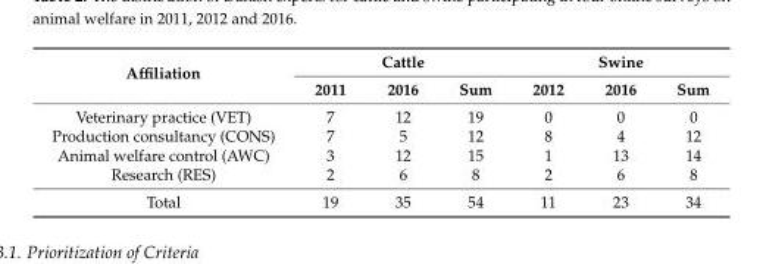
<table><thead><tr><td rowspan="2">Affiliation</td><td colspan="3">Cattle</td><td colspan="3">Swine</td></tr><tr><td>2011</td><td>2016</td><td>Sum</td><td>2012</td><td>2016</td><td>Sum</td></tr></thead><tbody><tr><td>Veterinary practice (VET)</td><td>7</td><td>12</td><td>19</td><td>0</td><td>0</td><td>0</td></tr><tr><td>Production consultancy (CONS)</td><td>7</td><td>5</td><td>12</td><td>8</td><td>4</td><td>12</td></tr><tr><td>Animal welfare control (AWC)</td><td>3</td><td>12</td><td>15</td><td>1</td><td>13</td><td>14</td></tr><tr><td>Research (RES)</td><td>2</td><td>6</td><td>8</td><td>2</td><td>6</td><td>8</td></tr><tr><td>Total</td><td>19</td><td>35</td><td>54</td><td>11</td><td>23</td><td>34</td></tr></tbody></table>